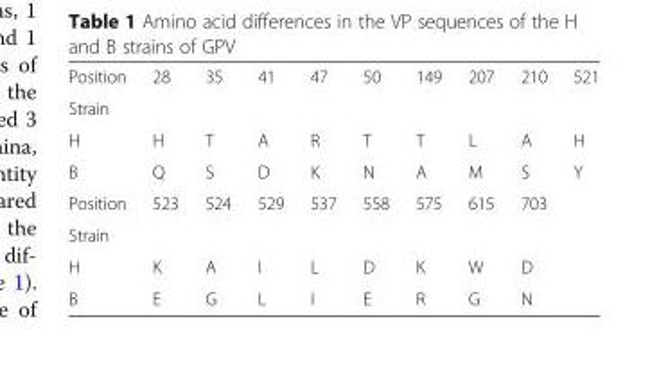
<table><tbody><tr><td>Position</td><td rowspan="2">28</td><td rowspan="2">35</td><td rowspan="2">41</td><td rowspan="2">47</td><td rowspan="2">50</td><td rowspan="2">149</td><td rowspan="2">207</td><td rowspan="2">210</td><td rowspan="2">521</td></tr><tr><td>Strain</td></tr><tr><td>H</td><td>H</td><td>T</td><td>A</td><td>R</td><td>T</td><td>T</td><td>L</td><td>A</td><td>H</td></tr><tr><td>B</td><td>Q</td><td>S</td><td>D</td><td>K</td><td>N</td><td>A</td><td>M</td><td>S</td><td>Y</td></tr><tr><td>Position</td><td rowspan="2">523</td><td rowspan="2">524</td><td rowspan="2">529</td><td rowspan="2">537</td><td rowspan="2">558</td><td rowspan="2">575</td><td rowspan="2">615</td><td rowspan="2">703</td><td rowspan="2"></td></tr><tr><td>Strain</td></tr><tr><td>H</td><td>K</td><td>A</td><td>I</td><td>L</td><td>D</td><td>K</td><td>W</td><td>D</td><td></td></tr><tr><td>B</td><td>E</td><td>G</td><td>L</td><td>I</td><td>E</td><td>R</td><td>G</td><td>N</td><td></td></tr></tbody></table>